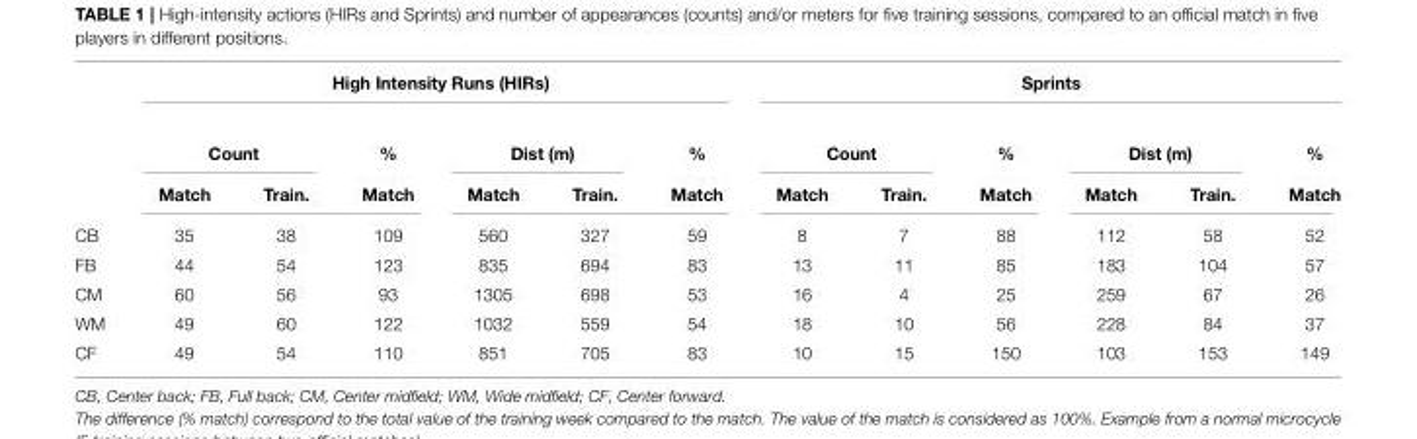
<table><thead><tr><td rowspan="3"></td><td colspan="6">High Intensity Runs (HIRs)</td><td colspan="6">Sprints</td></tr><tr><td colspan="2">Count</td><td rowspan="2">% Match</td><td colspan="2">Dist (m)</td><td rowspan="2">% Match</td><td colspan="2">Count</td><td rowspan="2">% Match</td><td colspan="2">Dist (m)</td><td rowspan="2">% Match</td></tr><tr><td>Match</td><td>Train.</td><td>Match</td><td>Train.</td><td>Match</td><td>Train.</td><td>Match</td><td>Train.</td></tr></thead><tbody><tr><td>CB</td><td>35</td><td>38</td><td>109</td><td>560</td><td>327</td><td>59</td><td>8</td><td>7</td><td>88</td><td>112</td><td>58</td><td>52</td></tr><tr><td>FB</td><td>44</td><td>54</td><td>123</td><td>835</td><td>694</td><td>83</td><td>13</td><td>11</td><td>85</td><td>183</td><td>104</td><td>57</td></tr><tr><td>CM</td><td>60</td><td>56</td><td>93</td><td>1305</td><td>698</td><td>53</td><td>16</td><td>4</td><td>25</td><td>259</td><td>67</td><td>26</td></tr><tr><td>WM</td><td>49</td><td>60</td><td>122</td><td>1032</td><td>559</td><td>54</td><td>18</td><td>10</td><td>56</td><td>228</td><td>84</td><td>37</td></tr><tr><td>CF</td><td>49</td><td>54</td><td>110</td><td>851</td><td>705</td><td>83</td><td>10</td><td>15</td><td>150</td><td>103</td><td>153</td><td>149</td></tr></tbody></table>